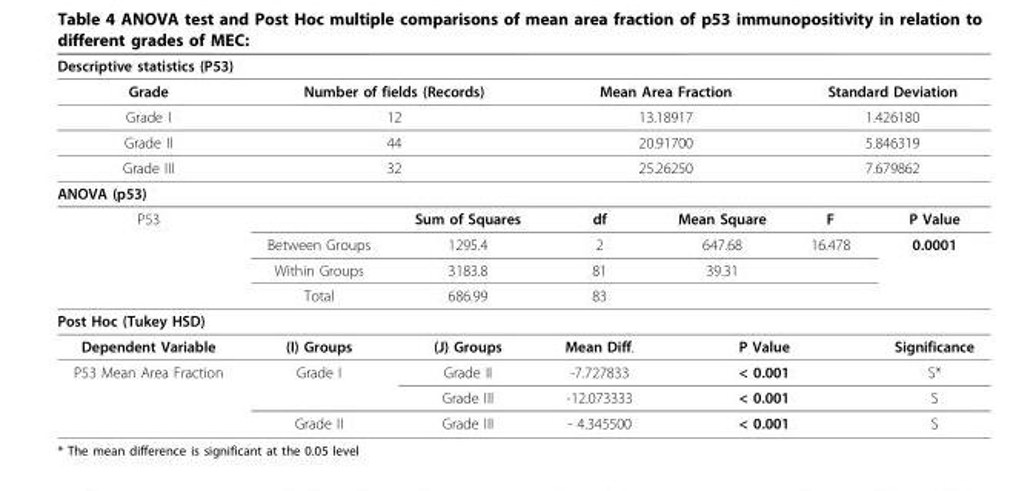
<table><thead><tr><td colspan="7">Descriptive statistics (P53)</td></tr></thead><tbody><tr><td>Grade</td><td colspan="2">Number of fields (Records)</td><td colspan="2">Mean Area Fraction</td><td colspan="2">Standard Deviation</td></tr><tr><td>Grade I</td><td colspan="2">12</td><td colspan="2">13.18917</td><td colspan="2">1.426180</td></tr><tr><td>Grade II</td><td colspan="2">44</td><td colspan="2">20.91700</td><td colspan="2">5.846319</td></tr><tr><td>Grade III</td><td colspan="2">32</td><td colspan="2">25.26250</td><td colspan="2">7.679862</td></tr><tr><td colspan="7">ANOVA (p53)</td></tr><tr><td rowspan="4">P53</td><td></td><td>Sum of Squares</td><td>df</td><td>Mean Square</td><td>F</td><td>P Value</td></tr><tr><td>Between Groups</td><td>1295.4</td><td>2</td><td>647.68</td><td>16.478</td><td>0.0001</td></tr><tr><td>Within Groups</td><td>3183.8</td><td>81</td><td>39.31</td><td></td><td></td></tr><tr><td>Total</td><td>686.99</td><td>83</td><td></td><td></td><td></td></tr><tr><td colspan="7">Post Hoc (Tukey HSD)</td></tr><tr><td>Dependent Variable</td><td>(I) Groups</td><td>(J) Groups</td><td>Mean Diff.</td><td colspan="2">P Value</td><td>Significance</td></tr><tr><td rowspan="3">P53 Mean Area Fraction</td><td>Grade I</td><td>Grade II</td><td>-7.727833</td><td colspan="2">&lt; 0.001</td><td>S*</td></tr><tr><td></td><td>Grade III</td><td>-12.073333</td><td colspan="2">&lt; 0.001</td><td>S</td></tr><tr><td>Grade II</td><td>Grade III</td><td>- 4.345500</td><td colspan="2">&lt; 0.001</td><td>S</td></tr></tbody></table>